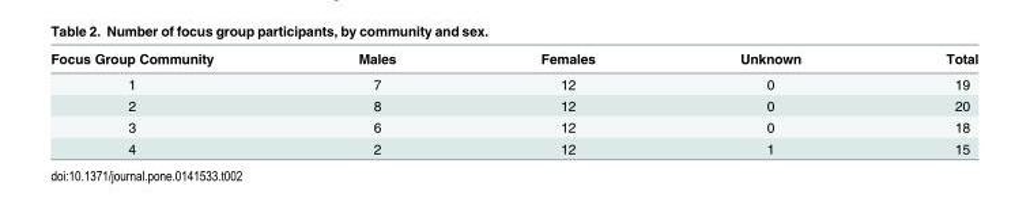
<table><thead><tr><td>Focus Group Community</td><td>Males</td><td>Females</td><td>Unknown</td><td>Total</td></tr></thead><tbody><tr><td>1</td><td>7</td><td>12</td><td>0</td><td>19</td></tr><tr><td>2</td><td>8</td><td>12</td><td>0</td><td>20</td></tr><tr><td>3</td><td>6</td><td>12</td><td>0</td><td>18</td></tr><tr><td>4</td><td>2</td><td>12</td><td>1</td><td>15</td></tr></tbody></table>